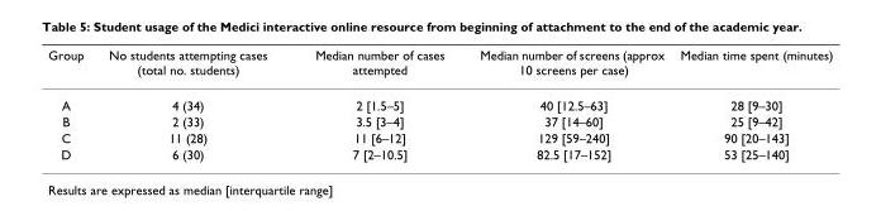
<table><thead><tr><td>Group</td><td>No students attempting cases (total no. students)</td><td>Median number of cases attempted</td><td>Median number of screens (approx 10 screens per case)</td><td>Median time spent (minutes)</td></tr></thead><tbody><tr><td>A</td><td>4 (34)</td><td>2 [1.5–5]</td><td>40 [12.5–63]</td><td>28 [9–30]</td></tr><tr><td>B</td><td>2 (33)</td><td>3.5 [3–4]</td><td>37 [14–60]</td><td>25 [9–42]</td></tr><tr><td>C</td><td>11 (28)</td><td>11 [6–12]</td><td>129 [59–240]</td><td>90 [20–143]</td></tr><tr><td>D</td><td>6 (30)</td><td>7 [2–10.5]</td><td>82.5 [17–152]</td><td>53 [25–140]</td></tr></tbody></table>